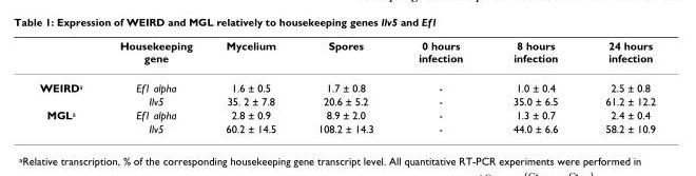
<table><thead><tr><td></td><td>Housekeeping gene</td><td>Mycelium</td><td>Spores</td><td>0 hours infection</td><td>8 hours infection</td><td>24 hours infection</td></tr></thead><tbody><tr><td rowspan="2">WEIRD<sup>a</sup></td><td>Ef1 alpha</td><td>1.6 ± 0.5</td><td>1.7 ± 0.8</td><td>-</td><td>1.0 ± 0.4</td><td>2.5 ± 0.8</td></tr><tr><td>Ilv5</td><td>35. 2 ± 7.8</td><td>20.6 ± 5.2</td><td>-</td><td>35.0 ± 6.5</td><td>61.2 ± 12.2</td></tr><tr><td rowspan="2">MGL<sup>a</sup></td><td>Ef1 alpha</td><td>2.8 ± 0.9</td><td>8.9 ± 2.0</td><td>-</td><td>1.3 ± 0.7</td><td>2.4 ± 0.4</td></tr><tr><td>Ilv5</td><td>60.2 ± 14.5</td><td>108.2 ± 14.3</td><td>-</td><td>44.0 ± 6.6</td><td>58.2 ± 10.9</td></tr></tbody></table>